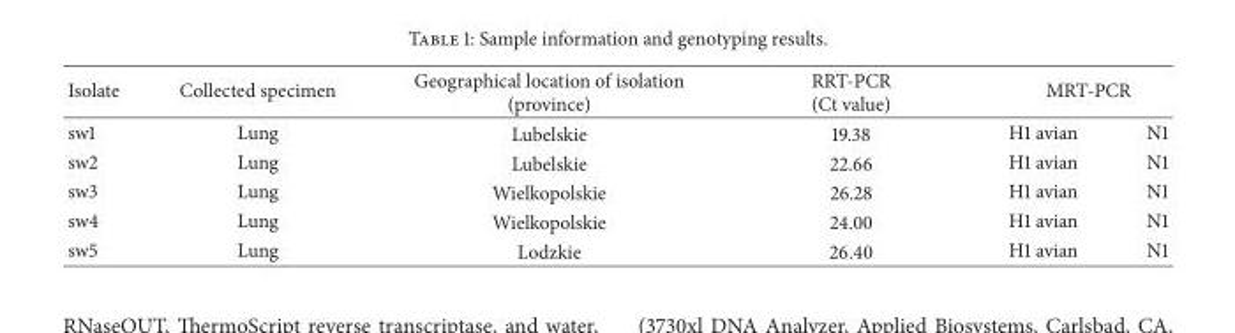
<table><thead><tr><td rowspan="2">Isolate sw1</td><td rowspan="2">Collected specimen Lung</td><td rowspan="2">Geographical location of isolation (province) Lubelskie</td><td rowspan="2">RRT-PCR (Ct value) 19.38</td><td colspan="2">MRT-PCR</td></tr><tr><td>H1 avian</td><td>N1</td></tr></thead><tbody><tr><td>sw2</td><td>Lung</td><td>Lubelskie</td><td>22.66</td><td>H1 avian</td><td>N1</td></tr><tr><td>sw3</td><td>Lung</td><td>Wielkopolskie</td><td>26.28</td><td>H1 avian</td><td>N1</td></tr><tr><td>sw4</td><td>Lung</td><td>Wielkopolskie</td><td>24.00</td><td>H1 avian</td><td>N1</td></tr><tr><td>sw5</td><td>Lung</td><td>Lodzkie</td><td>26.40</td><td>H1 avian</td><td>N1</td></tr></tbody></table>